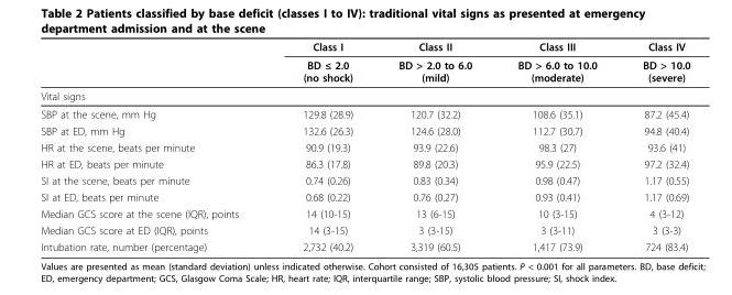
<table><thead><tr><td rowspan="2"></td><td rowspan="2">Class I BD ≤ 2.0 (no shock)</td><td rowspan="2">Class II BD &gt; 2.0 to 6.0 (mild)</td><td rowspan="2">Class III BD &gt; 6.0 to 10.0 (moderate)</td><td rowspan="2">Class IV BD &gt; 10.0 (severe)</td></tr><tr></tr></thead><tbody><tr><td colspan="5">Vital signs</td></tr><tr><td>SBP at the scene, mm Hg</td><td>129.8 (28.9)</td><td>120.7 (32.2)</td><td>108.6 (35.1)</td><td>87.2 (45.4)</td></tr><tr><td>SBP at ED, mm Hg</td><td>132.6 (26.3)</td><td>124.6 (28.0)</td><td>112.7 (30.7)</td><td>94.8 (40.4)</td></tr><tr><td>HR at the scene, beats per minute</td><td>90.9 (19.3)</td><td>93.9 (22.6)</td><td>98.3 (27)</td><td>93.6 (41)</td></tr><tr><td>HR at ED, beats per minute</td><td>86.3 (17.8)</td><td>89.8 (20.3)</td><td>95.9 (22.5)</td><td>97.2 (32.4)</td></tr><tr><td>SI at the scene, beats per minute</td><td>0.74 (0.26)</td><td>0.83 (0.34)</td><td>0.98 (0.47)</td><td>1.17 (0.55)</td></tr><tr><td>SI at ED, beats per minute</td><td>0.68 (0.22)</td><td>0.76 (0.27)</td><td>0.93 (0.41)</td><td>1.17 (0.69)</td></tr><tr><td>Median GCS score at the scene (IQR), points</td><td>14 (10-15)</td><td>13 (6-15)</td><td>10 (3-15)</td><td>4 (3-12)</td></tr><tr><td>Median GCS score at ED (IQR), points</td><td>14 (3-15)</td><td>3 (3-15)</td><td>3 (3-11)</td><td>3 (3-3)</td></tr><tr><td>Intubation rate, number (percentage)</td><td>2,732 (40.2)</td><td>3,319 (60.5)</td><td>1,417 (73.9)</td><td>724 (83.4)</td></tr></tbody></table>